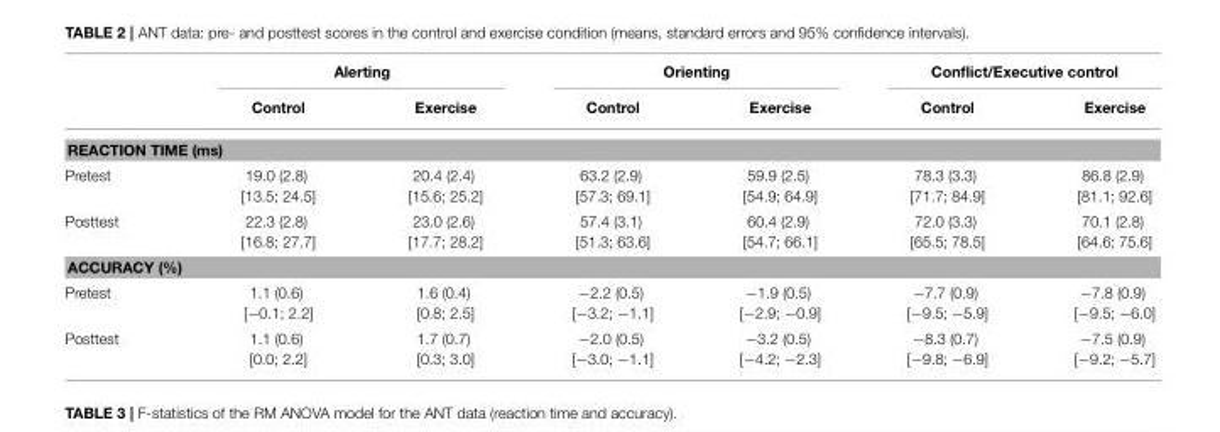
<table><thead><tr><td rowspan="2"></td><td colspan="2">Alerting</td><td colspan="2">Orienting</td><td colspan="2">Conflict/Executive control</td></tr><tr><td>Control</td><td>Exercise</td><td>Control</td><td>Exercise</td><td>Control</td><td>Exercise</td></tr></thead><tbody><tr><td colspan="7">REACTION TIME (ms)</td></tr><tr><td>Pretest</td><td>19.0 (2.8) [13.5; 24.5]</td><td>20.4 (2.4) [15.6; 25.2]</td><td>63.2 (2.9) [57.3; 69.1]</td><td>59.9 (2.5) [54.9; 64.9]</td><td>78.3 (3.3) [71.7; 84.9]</td><td>86.8 (2.9) [81.1; 92.6]</td></tr><tr><td>Posttest</td><td>22.3 (2.8) [16.8; 27.7]</td><td>23.0 (2.6) [17.7; 28.2]</td><td>57.4 (3.1) [51.3; 63.6]</td><td>60.4 (2.9) [54.7; 66.1]</td><td>72.0 (3.3) [65.5; 78.5]</td><td>70.1 (2.8) [64.6; 75.6]</td></tr><tr><td colspan="7">ACCURACY (%)</td></tr><tr><td>Pretest</td><td>1.1 (0.6) [−0.1; 2.2]</td><td>1.6 (0.4) [0.8; 2.5]</td><td>−2.2 (0.5) [−3.2; −1.1]</td><td>−1.9 (0.5) [−2.9; −0.9]</td><td>−7.7 (0.9) [−9.5; −5.9]</td><td>−7.8 (0.9) [−9.5; −6.0]</td></tr><tr><td>Posttest</td><td>1.1 (0.6) [0.0; 2.2]</td><td>1.7 (0.7) [0.3; 3.0]</td><td>−2.0 (0.5) [−3.0; −1.1]</td><td>−3.2 (0.5) [−4.2; −2.3]</td><td>−8.3 (0.7) [−9.8; −6.9]</td><td>−7.5 (0.9) [−9.2; −5.7]</td></tr></tbody></table>